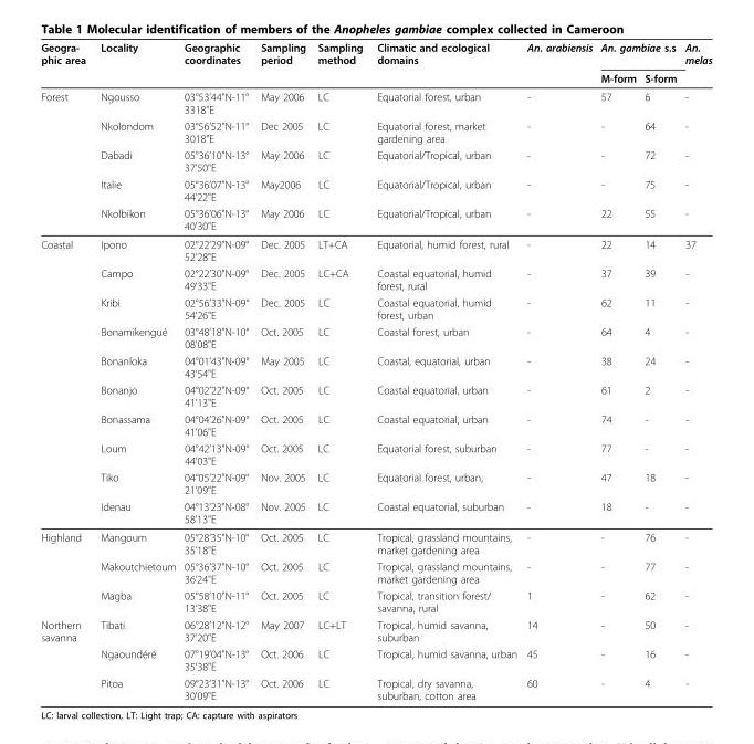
<table><thead><tr><td rowspan="2">Geogra- phic area</td><td rowspan="2">Locality</td><td rowspan="2">Geographic coordinates</td><td rowspan="2">Sampling period</td><td rowspan="2">Sampling method</td><td rowspan="2">Climatic and ecological domains</td><td rowspan="2">An. arabiensis</td><td colspan="2">An. gambiae s.s</td><td rowspan="2">An. melas</td></tr><tr><td>M-form</td><td>S-form</td></tr></thead><tbody><tr><td rowspan="5">Forest</td><td>Ngousso</td><td>03°53’44&quot;N-11° 3318&quot;E</td><td>May 2006</td><td>LC</td><td>Equatorial forest, urban</td><td>-</td><td>57</td><td>6</td><td>-</td></tr><tr><td>Nkolondom</td><td>03°56’52&quot;N-11° 3018&quot;E</td><td>Dec 2005</td><td>LC</td><td>Equatorial forest, market gardening area</td><td>-</td><td>-</td><td>64</td><td>-</td></tr><tr><td>Dabadi</td><td>05°36’10&quot;N-13° 37’50&quot;E</td><td>May 2006</td><td>LC</td><td>Equatorial/Tropical, urban</td><td>-</td><td>-</td><td>72</td><td>-</td></tr><tr><td>Italie</td><td>05°36’07&quot;N-13° 44’22&quot;E</td><td>May2006</td><td>LC</td><td>Equatorial/Tropical, urban</td><td>-</td><td>-</td><td>75</td><td>-</td></tr><tr><td>Nkolbikon</td><td>05°36’06&quot;N-13° 40’30&quot;E</td><td>May 2006</td><td>LC</td><td>Equatorial/Tropical, urban</td><td>-</td><td>22</td><td>55</td><td>-</td></tr><tr><td rowspan="10">Coastal</td><td>Ipono</td><td>02°22’29&quot;N-09° 52’28&quot;E</td><td>Dec. 2005</td><td>LT+CA</td><td>Equatorial, humid forest, rural</td><td>-</td><td>22</td><td>14</td><td>37</td></tr><tr><td>Campo</td><td>02°22’30&quot;N-09° 49’33&quot;E</td><td>Dec. 2005</td><td>LC+CA</td><td>Coastal equatorial, humid forest, rural</td><td>-</td><td>37</td><td>39</td><td>-</td></tr><tr><td>Kribi</td><td>02°56’33&quot;N-09° 54’26&quot;E</td><td>Dec. 2005</td><td>LC</td><td>Coastal equatorial, humid forest, urban</td><td>-</td><td>62</td><td>11</td><td>-</td></tr><tr><td>Bonamikengué</td><td>03°48’18&quot;N-10° 08’08&quot;E</td><td>Oct. 2005</td><td>LC</td><td>Coastal forest, urban</td><td>-</td><td>64</td><td>4</td><td>-</td></tr><tr><td>Bonanloka</td><td>04°01’43&quot;N-09° 43’54&quot;E</td><td>May 2005</td><td>LC</td><td>Coastal, equatorial, urban</td><td>-</td><td>38</td><td>24</td><td>-</td></tr><tr><td>Bonanjo</td><td>04°02’22&quot;N-09° 41’13&quot;E</td><td>Oct. 2005</td><td>LC</td><td>Coastal equatorial, urban</td><td>-</td><td>61</td><td>2</td><td>-</td></tr><tr><td>Bonassama</td><td>04°04’26&quot;N-09° 41’06&quot;E</td><td>Oct. 2005</td><td>LC</td><td>Coastal equatorial, urban</td><td>-</td><td>74</td><td>-</td><td>-</td></tr><tr><td>Loum</td><td>04°42’13&quot;N-09° 44’03&quot;E</td><td>Oct. 2005</td><td>LC</td><td>Equatorial forest, suburban</td><td>-</td><td>77</td><td>-</td><td>-</td></tr><tr><td>Tiko</td><td>04°05’22&quot;N-09° 21’09&quot;E</td><td>Nov. 2005</td><td>LC</td><td>Equatorial forest, urban,</td><td>-</td><td>47</td><td>18</td><td>-</td></tr><tr><td>Idenau</td><td>04°13’23&quot;N-08° 58’13&quot;E</td><td>Nov. 2005</td><td>LC</td><td>Coastal equatorial, suburban</td><td>-</td><td>18</td><td>-</td><td>-</td></tr><tr><td rowspan="3">Highland</td><td>Mangoum</td><td>05°28’35&quot;N-10° 35’18&quot;E</td><td>Oct. 2005</td><td>LC</td><td>Tropical, grassland mountains, market gardening area</td><td>-</td><td>-</td><td>76</td><td>-</td></tr><tr><td>Makoutchietoum</td><td>05°36’37&quot;N-10° 36’24&quot;E</td><td>Oct. 2005</td><td>LC</td><td>Tropical, grassland mountains, market gardening area</td><td>-</td><td>-</td><td>77</td><td>-</td></tr><tr><td>Magba</td><td>05°58’10&quot;N-11° 13’38&quot;E</td><td>Oct. 2005</td><td>LC</td><td>Tropical, transition forest/ savanna, rural</td><td>1</td><td>-</td><td>62</td><td>-</td></tr><tr><td rowspan="3">Northern savanna</td><td>Tibati</td><td>06°28’12&quot;N-12° 37’20&quot;E</td><td>May 2007</td><td>LC+LT</td><td>Tropical, humid savanna, suburban</td><td>14</td><td>-</td><td>50</td><td>-</td></tr><tr><td>Ngaoundéré</td><td>07°19’04&quot;N-13° 35’38&quot;E</td><td>Oct. 2006</td><td>LC</td><td>Tropical, humid savanna, urban</td><td>45</td><td>-</td><td>16</td><td>-</td></tr><tr><td>Pitoa</td><td>09°23’31&quot;N-13° 30’09&quot;E</td><td>Oct. 2006</td><td>LC</td><td>Tropical, dry savanna, suburban, cotton area</td><td>60</td><td>-</td><td>4</td><td>-</td></tr></tbody></table>